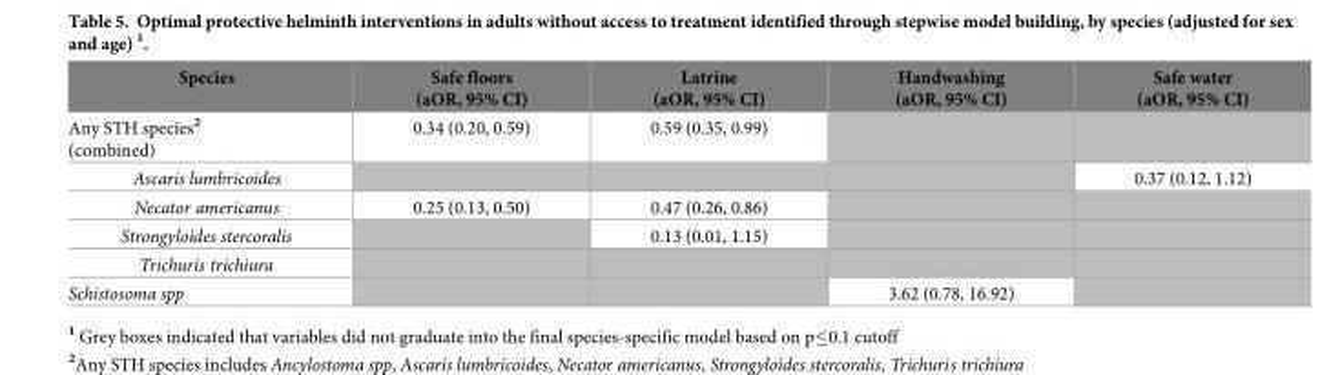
<table><thead><tr><td>Species</td><td>Safe floors (aOR, 95% CI)</td><td>Latrine (aOR, 95% CI)</td><td>Handwashing (aOR, 95% CI)</td><td>Safe water (aOR, 95% CI)</td></tr></thead><tbody><tr><td>Any STH species<sup>2</sup> (combined)</td><td>0.34 (0.20, 0.59)</td><td>0.59 (0.35, 0.99)</td><td></td><td></td></tr><tr><td>Ascaris lumbricoides</td><td></td><td></td><td></td><td>0.37 (0.12, 1.12)</td></tr><tr><td>Necator americanus</td><td>0.25 (0.13, 0.50)</td><td>0.47 (0.26, 0.86)</td><td></td><td></td></tr><tr><td>Strongyloides stercoralis</td><td></td><td>0.13 (0.01, 1.15)</td><td></td><td></td></tr><tr><td colspan="5">Trichuris trichiura</td></tr><tr><td>Schistosoma spp</td><td></td><td></td><td>3.62 (0.78, 16.92)</td><td></td></tr></tbody></table>